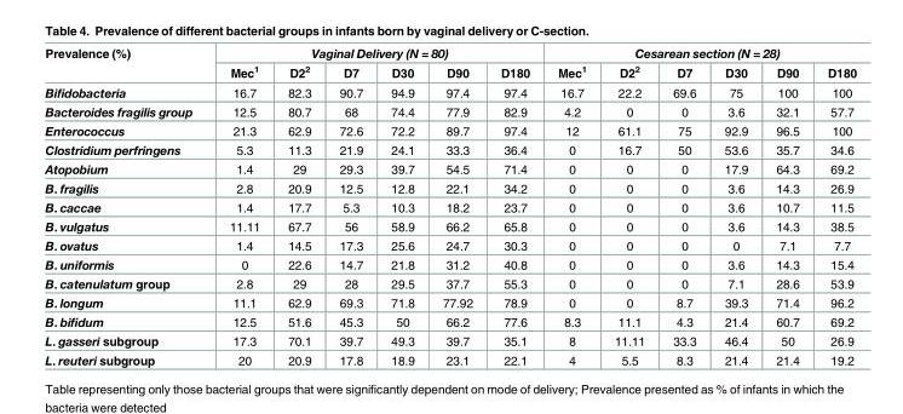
<table><thead><tr><td rowspan="2">Prevalence (%)</td><td colspan="6">Vaginal Delivery (N = 80)</td><td colspan="6">Cesarean section (N = 28)</td></tr><tr><td>Mec<sup>1</sup></td><td>D2<sup>2</sup></td><td>D7</td><td>D30</td><td>D90</td><td>D180</td><td>Mec<sup>1</sup></td><td>D2<sup>2</sup></td><td>D7</td><td>D30</td><td>D90</td><td>D180</td></tr></thead><tbody><tr><td>Bifidobacteria</td><td>16.7</td><td>82.3</td><td>90.7</td><td>94.9</td><td>97.4</td><td>97.4</td><td>16.7</td><td>22.2</td><td>69.6</td><td>75</td><td>100</td><td>100</td></tr><tr><td>Bacteroides fragilis group</td><td>12.5</td><td>80.7</td><td>68</td><td>74.4</td><td>77.9</td><td>82.9</td><td>4.2</td><td>0</td><td>0</td><td>3.6</td><td>32.1</td><td>57.7</td></tr><tr><td>Enterococcus</td><td>21.3</td><td>62.9</td><td>72.6</td><td>72.2</td><td>89.7</td><td>97.4</td><td>12</td><td>61.1</td><td>75</td><td>92.9</td><td>96.5</td><td>100</td></tr><tr><td>Clostridium perfringens</td><td>5.3</td><td>11.3</td><td>21.9</td><td>24.1</td><td>33.3</td><td>36.4</td><td>0</td><td>16.7</td><td>50</td><td>53.6</td><td>35.7</td><td>34.6</td></tr><tr><td>Atopobium</td><td>1.4</td><td>29</td><td>29.3</td><td>39.7</td><td>54.5</td><td>71.4</td><td>0</td><td>0</td><td>0</td><td>17.9</td><td>64.3</td><td>69.2</td></tr><tr><td>B. fragilis</td><td>2.8</td><td>20.9</td><td>12.5</td><td>12.8</td><td>22.1</td><td>34.2</td><td>0</td><td>0</td><td>0</td><td>3.6</td><td>14.3</td><td>26.9</td></tr><tr><td>B. caccae</td><td>1.4</td><td>17.7</td><td>5.3</td><td>10.3</td><td>18.2</td><td>23.7</td><td>0</td><td>0</td><td>0</td><td>3.6</td><td>10.7</td><td>11.5</td></tr><tr><td>B. vulgatus</td><td>11.11</td><td>67.7</td><td>56</td><td>58.9</td><td>66.2</td><td>65.8</td><td>0</td><td>0</td><td>0</td><td>3.6</td><td>14.3</td><td>38.5</td></tr><tr><td>B. ovatus</td><td>1.4</td><td>14.5</td><td>17.3</td><td>25.6</td><td>24.7</td><td>30.3</td><td>0</td><td>0</td><td>0</td><td>0</td><td>7.1</td><td>7.7</td></tr><tr><td>B. uniformis</td><td>0</td><td>22.6</td><td>14.7</td><td>21.8</td><td>31.2</td><td>40.8</td><td>0</td><td>0</td><td>0</td><td>3.6</td><td>14.3</td><td>15.4</td></tr><tr><td>B. catenulatum group</td><td>2.8</td><td>29</td><td>28</td><td>29.5</td><td>37.7</td><td>55.3</td><td>0</td><td>0</td><td>0</td><td>7.1</td><td>28.6</td><td>53.9</td></tr><tr><td>B. longum</td><td>11.1</td><td>62.9</td><td>69.3</td><td>71.8</td><td>77.92</td><td>78.9</td><td>0</td><td>0</td><td>8.7</td><td>39.3</td><td>71.4</td><td>96.2</td></tr><tr><td>B. bifidum</td><td>12.5</td><td>51.6</td><td>45.3</td><td>50</td><td>66.2</td><td>77.6</td><td>8.3</td><td>11.1</td><td>4.3</td><td>21.4</td><td>60.7</td><td>69.2</td></tr><tr><td>L. gasseri subgroup</td><td>17.3</td><td>70.1</td><td>39.7</td><td>49.3</td><td>39.7</td><td>35.1</td><td>8</td><td>11.11</td><td>33.3</td><td>46.4</td><td>50</td><td>26.9</td></tr><tr><td>L. reuteri subgroup</td><td>20</td><td>20.9</td><td>17.8</td><td>18.9</td><td>23.1</td><td>22.1</td><td>4</td><td>5.5</td><td>8.3</td><td>21.4</td><td>21.4</td><td>19.2</td></tr></tbody></table>